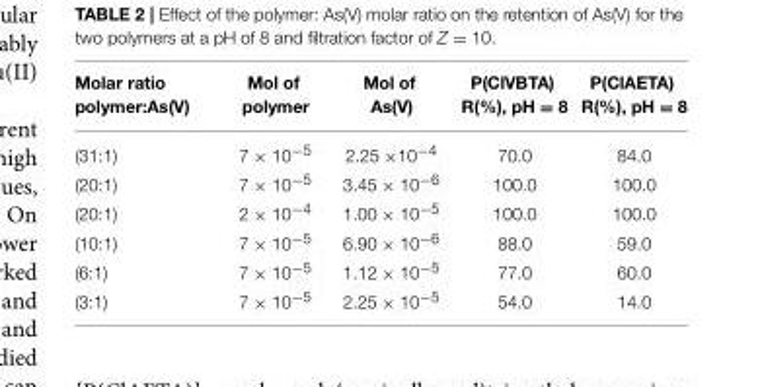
<table><thead><tr><td>Molar ratio polymer:As(V)</td><td>Mol of polymer</td><td>Mol of As(V)</td><td>P(ClVBTA) R(%), pH = 8</td><td>P(ClAETA) R(%), pH = 8</td></tr></thead><tbody><tr><td>(31:1)</td><td>7 × 10<sup>−5</sup></td><td>2.25 ×10<sup>−4</sup></td><td>70.0</td><td>84.0</td></tr><tr><td>(20:1)</td><td>7 × 10<sup>−5</sup></td><td>3.45 × 10<sup>−6</sup></td><td>100.0</td><td>100.0</td></tr><tr><td>(20:1)</td><td>2 × 10<sup>−4</sup></td><td>1.00 × 10<sup>−5</sup></td><td>100.0</td><td>100.0</td></tr><tr><td>(10:1)</td><td>7 × 10<sup>−5</sup></td><td>6.90 × 10<sup>−6</sup></td><td>88.0</td><td>59.0</td></tr><tr><td>(6:1)</td><td>7 × 10<sup>−5</sup></td><td>1.12 × 10<sup>−5</sup></td><td>77.0</td><td>60.0</td></tr><tr><td>(3:1)</td><td>7 × 10<sup>−5</sup></td><td>2.25 × 10<sup>−5</sup></td><td>54.0</td><td>14.0</td></tr></tbody></table>